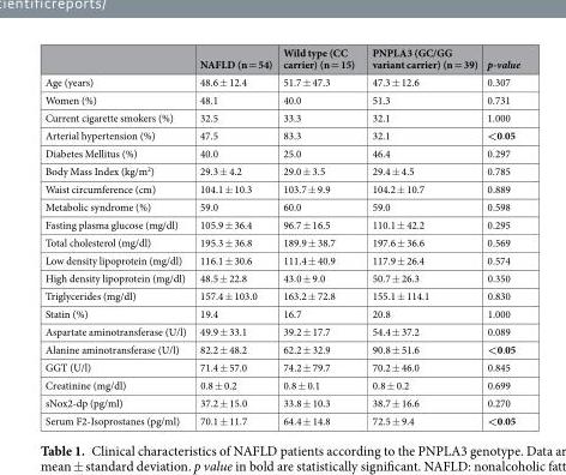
<table><thead><tr><td></td><td>NAFLD (n = 54)</td><td>Wild type (CC carrier) (n = 15)</td><td>PNPLA3 (GC/GG variant carrier) (n = 39)</td><td>p-value</td></tr></thead><tbody><tr><td>Age (years)</td><td>48.6 ± 12.4</td><td>51.7 ± 47.3</td><td>47.3 ± 12.6</td><td>0.307</td></tr><tr><td>Women (%)</td><td>48.1</td><td>40.0</td><td>51.3</td><td>0.731</td></tr><tr><td>Current cigarette smokers (%)</td><td>32.5</td><td>33.3</td><td>32.1</td><td>1.000</td></tr><tr><td>Arterial hypertension (%)</td><td>47.5</td><td>83.3</td><td>32.1</td><td>&lt;0.05</td></tr><tr><td>Diabetes Mellitus (%)</td><td>40.0</td><td>25.0</td><td>46.4</td><td>0.297</td></tr><tr><td>Body Mass Index (kg/m<sup>2</sup>)</td><td>29.3 ± 4.2</td><td>29.0 ± 3.5</td><td>29.4 ± 4.5</td><td>0.785</td></tr><tr><td>Waist circumference (cm)</td><td>104.1 ± 10.3</td><td>103.7 ± 9.9</td><td>104.2 ± 10.7</td><td>0.889</td></tr><tr><td>Metabolic syndrome (%)</td><td>59.0</td><td>60.0</td><td>59.0</td><td>0.598</td></tr><tr><td>Fasting plasma glucose (mg/dl)</td><td>105.9 ± 36.4</td><td>96.7 ± 16.5</td><td>110.1 ± 42.2</td><td>0.295</td></tr><tr><td>Total cholesterol (mg/dl)</td><td>195.3 ± 36.8</td><td>189.9 ± 38.7</td><td>197.6 ± 36.6</td><td>0.569</td></tr><tr><td>Low density lipoprotein (mg/dl)</td><td>116.1 ± 30.6</td><td>111.4 ± 40.9</td><td>117.9 ± 26.4</td><td>0.574</td></tr><tr><td>High density lipoprotein (mg/dl)</td><td>48.5 ± 22.8</td><td>43.0 ± 9.0</td><td>50.7 ± 26.3</td><td>0.350</td></tr><tr><td>Triglycerides (mg/dl)</td><td>157.4 ± 103.0</td><td>163.2 ± 72.8</td><td>155.1 ± 114.1</td><td>0.830</td></tr><tr><td>Statin (%)</td><td>19.4</td><td>16.7</td><td>20.8</td><td>1.000</td></tr><tr><td>Aspartate aminotransferase (U/l)</td><td>49.9 ± 33.1</td><td>39.2 ± 17.7</td><td>54.4 ± 37.2</td><td>0.089</td></tr><tr><td>Alanine aminotransferase (U/l)</td><td>82.2 ± 48.2</td><td>62.2 ± 32.9</td><td>90.8 ± 51.6</td><td>&lt;0.05</td></tr><tr><td>GGT (U/l)</td><td>71.4 ± 57.0</td><td>74.2 ± 79.7</td><td>70.2 ± 46.0</td><td>0.845</td></tr><tr><td>Creatinine (mg/dl)</td><td>0.8 ± 0.2</td><td>0.8 ± 0.1</td><td>0.8 ± 0.2</td><td>0.699</td></tr><tr><td>sNox2-dp (pg/ml)</td><td>37.2 ± 15.0</td><td>33.8 ± 10.3</td><td>38.7 ± 16.6</td><td>0.270</td></tr><tr><td>Serum F2-Isoprostanes (pg/ml)</td><td>70.1 ± 11.7</td><td>64.4 ± 14.8</td><td>72.5 ± 9.4</td><td>&lt;0.05</td></tr></tbody></table>